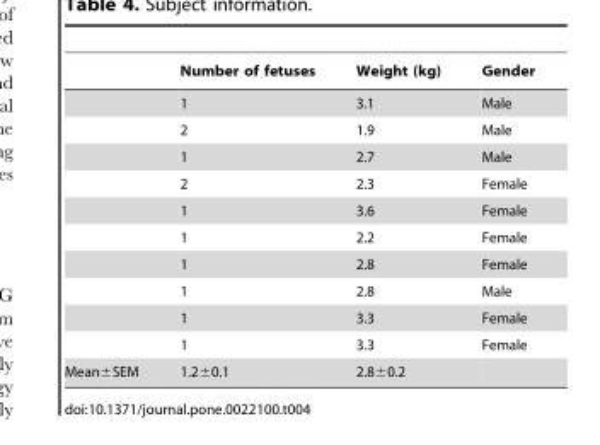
<table><thead><tr><td></td><td>Number of fetuses</td><td>Weight (kg)</td><td>Gender</td></tr></thead><tbody><tr><td></td><td>1</td><td>3.1</td><td>Male</td></tr><tr><td></td><td>2</td><td>1.9</td><td>Male</td></tr><tr><td></td><td>1</td><td>2.7</td><td>Male</td></tr><tr><td></td><td>2</td><td>2.3</td><td>Female</td></tr><tr><td></td><td>1</td><td>3.6</td><td>Female</td></tr><tr><td></td><td>1</td><td>2.2</td><td>Female</td></tr><tr><td></td><td>1</td><td>2.8</td><td>Female</td></tr><tr><td></td><td>1</td><td>2.8</td><td>Male</td></tr><tr><td></td><td>1</td><td>3.3</td><td>Female</td></tr><tr><td></td><td>1</td><td>3.3</td><td>Female</td></tr><tr><td>Mean±SEM</td><td>1.2±0.1</td><td>2.8±0.2</td><td></td></tr></tbody></table>